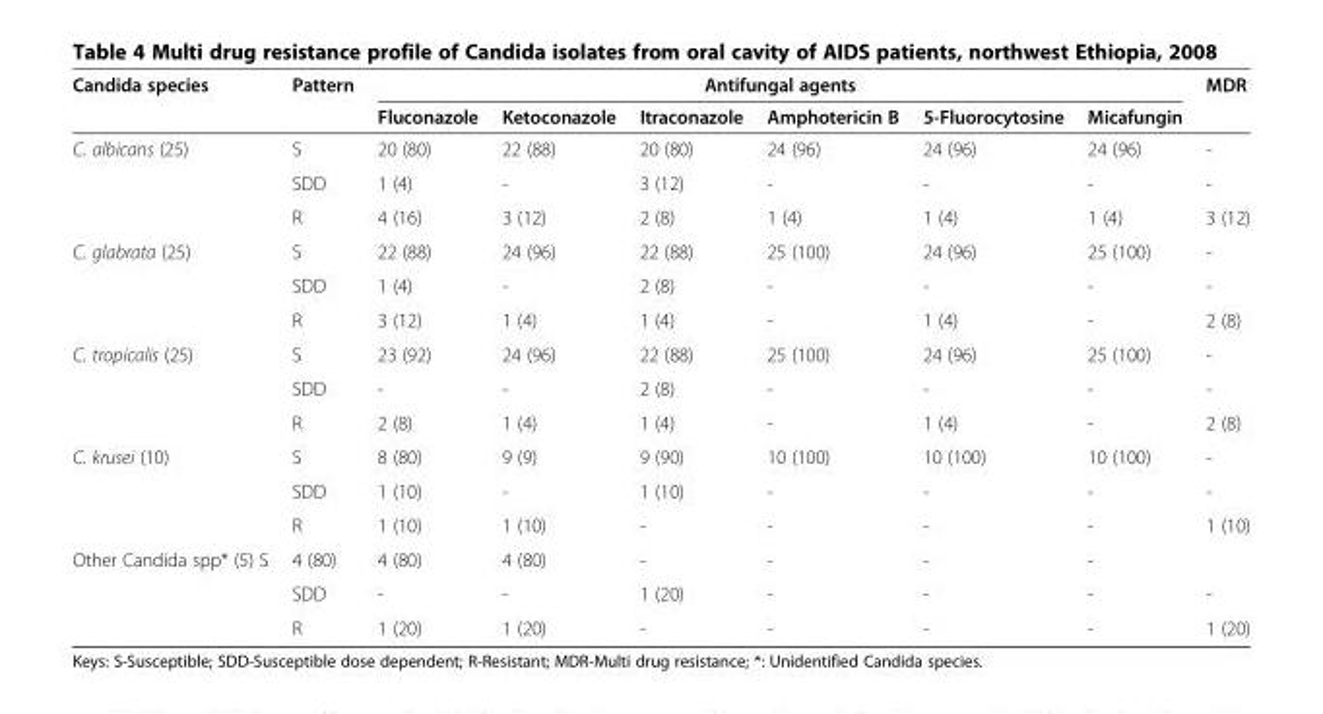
<table><thead><tr><td rowspan="2">Candida species</td><td rowspan="2">Pattern</td><td colspan="6">Antifungal agents</td><td rowspan="2">MDR</td></tr><tr><td>Fluconazole</td><td>Ketoconazole</td><td>Itraconazole</td><td>Amphotericin B</td><td>5-Fluorocytosine</td><td>Micafungin</td></tr></thead><tbody><tr><td rowspan="3">C. albicans (25)</td><td>S</td><td>20 (80)</td><td>22 (88)</td><td>20 (80)</td><td>24 (96)</td><td>24 (96)</td><td>24 (96)</td><td>-</td></tr><tr><td>SDD</td><td>1 (4)</td><td>-</td><td>3 (12)</td><td>-</td><td>-</td><td>-</td><td>-</td></tr><tr><td>R</td><td>4 (16)</td><td>3 (12)</td><td>2 (8)</td><td>1 (4)</td><td>1 (4)</td><td>1 (4)</td><td>3 (12)</td></tr><tr><td rowspan="3">C. glabrata (25)</td><td>S</td><td>22 (88)</td><td>24 (96)</td><td>22 (88)</td><td>25 (100)</td><td>24 (96)</td><td>25 (100)</td><td>-</td></tr><tr><td>SDD</td><td>1 (4)</td><td>-</td><td>2 (8)</td><td>-</td><td>-</td><td>-</td><td>-</td></tr><tr><td>R</td><td>3 (12)</td><td>1 (4)</td><td>1 (4)</td><td>-</td><td>1 (4)</td><td>-</td><td>2 (8)</td></tr><tr><td rowspan="3">C. tropicalis (25)</td><td>S</td><td>23 (92)</td><td>24 (96)</td><td>22 (88)</td><td>25 (100)</td><td>24 (96)</td><td>25 (100)</td><td>-</td></tr><tr><td>SDD</td><td>-</td><td>-</td><td>2 (8)</td><td>-</td><td>-</td><td>-</td><td>-</td></tr><tr><td>R</td><td>2 (8)</td><td>1 (4)</td><td>1 (4)</td><td>-</td><td>1 (4)</td><td>-</td><td>2 (8)</td></tr><tr><td rowspan="3">C. krusei (10)</td><td>S</td><td>8 (80)</td><td>9 (9)</td><td>9 (90)</td><td>10 (100)</td><td>10 (100)</td><td>10 (100)</td><td>-</td></tr><tr><td>SDD</td><td>1 (10)</td><td>-</td><td>1 (10)</td><td>-</td><td>-</td><td>-</td><td>-</td></tr><tr><td>R</td><td>1 (10)</td><td>1 (10)</td><td>-</td><td>-</td><td>-</td><td>-</td><td>1 (10)</td></tr><tr><td rowspan="3">Other Candida spp* (5) S</td><td>4 (80)</td><td>4 (80)</td><td>4 (80)</td><td>-</td><td>-</td><td>-</td><td>-</td><td></td></tr><tr><td>SDD</td><td>-</td><td>-</td><td>1 (20)</td><td>-</td><td>-</td><td>-</td><td>-</td></tr><tr><td>R</td><td>1 (20)</td><td>1 (20)</td><td>-</td><td>-</td><td>-</td><td>-</td><td>1 (20)</td></tr></tbody></table>